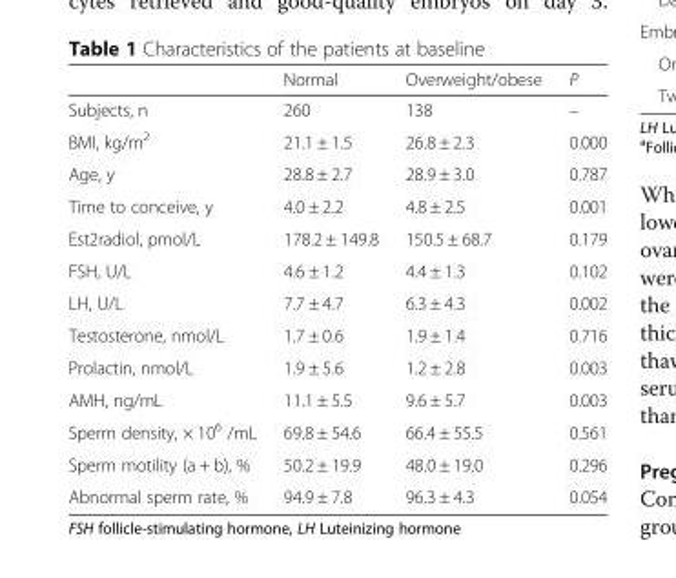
<table><thead><tr><td></td><td>Normal</td><td>Overweight/obese</td><td>P</td></tr></thead><tbody><tr><td>Subjects, n</td><td>260</td><td>138</td><td>–</td></tr><tr><td>BMI, kg/m<sup>2</sup></td><td>21.1 ± 1.5</td><td>26.8 ± 2.3</td><td>0.000</td></tr><tr><td>Age, y</td><td>28.8 ± 2.7</td><td>28.9 ± 3.0</td><td>0.787</td></tr><tr><td>Time to conceive, y</td><td>4.0 ± 2.2</td><td>4.8 ± 2.5</td><td>0.001</td></tr><tr><td>Est2radiol, pmol/L</td><td>178.2 ± 149.8</td><td>150.5 ± 68.7</td><td>0.179</td></tr><tr><td>FSH, U/L</td><td>4.6 ± 1.2</td><td>4.4 ± 1.3</td><td>0.102</td></tr><tr><td>LH, U/L</td><td>7.7 ± 4.7</td><td>6.3 ± 4.3</td><td>0.002</td></tr><tr><td>Testosterone, nmol/L</td><td>1.7 ± 0.6</td><td>1.9 ± 1.4</td><td>0.716</td></tr><tr><td>Prolactin, nmol/L</td><td>1.9 ± 5.6</td><td>1.2 ± 2.8</td><td>0.003</td></tr><tr><td>AMH, ng/mL</td><td>11.1 ± 5.5</td><td>9.6 ± 5.7</td><td>0.003</td></tr><tr><td>Sperm density, × 10<sup>6</sup> /mL</td><td>69.8 ± 54.6</td><td>66.4 ± 55.5</td><td>0.561</td></tr><tr><td>Sperm motility (a + b), %</td><td>50.2 ± 19.9</td><td>48.0 ± 19.0</td><td>0.296</td></tr><tr><td>Abnormal sperm rate, %</td><td>94.9 ± 7.8</td><td>96.3 ± 4.3</td><td>0.054</td></tr></tbody></table>